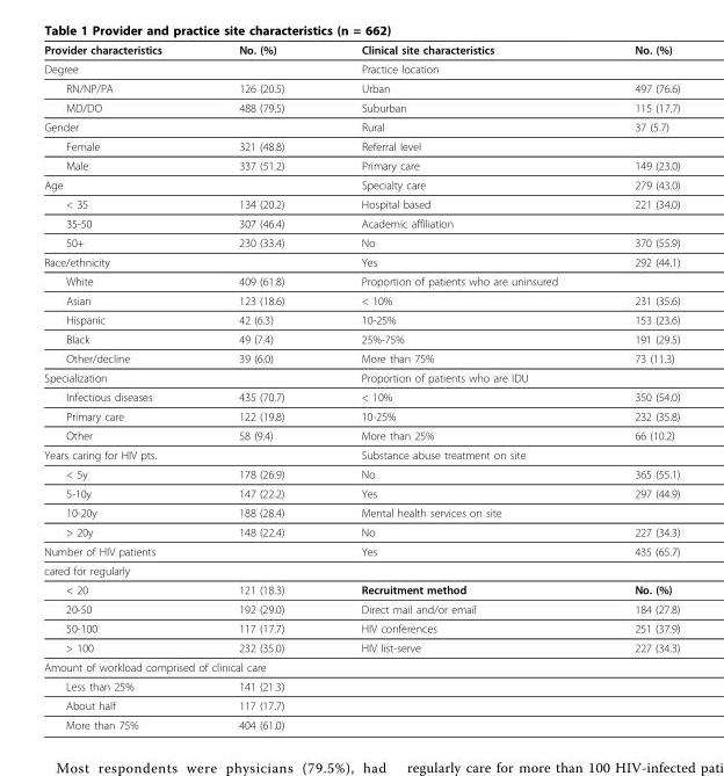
<table><thead><tr><td>Provider characteristics</td><td>No. (%)</td><td>Clinical site characteristics</td><td>No. (%)</td></tr></thead><tbody><tr><td>Degree</td><td></td><td>Practice location</td><td></td></tr><tr><td>RN/NP/PA</td><td>126 (20.5)</td><td>Urban</td><td>497 (76.6)</td></tr><tr><td>MD/DO</td><td>488 (79.5)</td><td>Suburban</td><td>115 (17.7)</td></tr><tr><td>Gender</td><td></td><td>Rural</td><td>37 (5.7)</td></tr><tr><td>Female</td><td>321 (48.8)</td><td>Referral level</td><td></td></tr><tr><td>Male</td><td>337 (51.2)</td><td>Primary care</td><td>149 (23.0)</td></tr><tr><td>Age</td><td></td><td>Specialty care</td><td>279 (43.0)</td></tr><tr><td>&lt; 35</td><td>134 (20.2)</td><td>Hospital based</td><td>221 (34.0)</td></tr><tr><td>35-50</td><td>307 (46.4)</td><td>Academic affiliation</td><td></td></tr><tr><td>50+</td><td>230 (33.4)</td><td>No</td><td>370 (55.9)</td></tr><tr><td>Race/ethnicity</td><td></td><td>Yes</td><td>292 (44.1)</td></tr><tr><td>White</td><td>409 (61.8)</td><td>Proportion of patients who are uninsured</td><td></td></tr><tr><td>Asian</td><td>123 (18.6)</td><td>&lt; 10%</td><td>231 (35.6)</td></tr><tr><td>Hispanic</td><td>42 (6.3)</td><td>10-25%</td><td>153 (23.6)</td></tr><tr><td>Black</td><td>49 (7.4)</td><td>25%-75%</td><td>191 (29.5)</td></tr><tr><td>Other/decline</td><td>39 (6.0)</td><td>More than 75%</td><td>73 (11.3)</td></tr><tr><td>Specialization</td><td></td><td>Proportion of patients who are IDU</td><td></td></tr><tr><td>Infectious diseases</td><td>435 (70.7)</td><td>&lt; 10%</td><td>350 (54.0)</td></tr><tr><td>Primary care</td><td>122 (19.8)</td><td>10-25%</td><td>232 (35.8)</td></tr><tr><td>Other</td><td>58 (9.4)</td><td>More than 25%</td><td>66 (10.2)</td></tr><tr><td>Years caring for HIV pts.</td><td></td><td>Substance abuse treatment on site</td><td></td></tr><tr><td>&lt; 5y</td><td>178 (26.9)</td><td>No</td><td>365 (55.1)</td></tr><tr><td>5-10y</td><td>147 (22.2)</td><td>Yes</td><td>297 (44.9)</td></tr><tr><td>10-20y</td><td>188 (28.4)</td><td>Mental health services on site</td><td></td></tr><tr><td>&gt; 20y</td><td>148 (22.4)</td><td>No</td><td>227 (34.3)</td></tr><tr><td>Number of HIV patients</td><td></td><td>Yes</td><td>435 (65.7)</td></tr><tr><td colspan="4">cared for regularly</td></tr><tr><td>&lt; 20</td><td>121 (18.3)</td><td>Recruitment method</td><td>No. (%)</td></tr><tr><td>20-50</td><td>192 (29.0)</td><td>Direct mail and/or email</td><td>184 (27.8)</td></tr><tr><td>50-100</td><td>117 (17.7)</td><td>HIV conferences</td><td>251 (37.9)</td></tr><tr><td>&gt; 100</td><td>232 (35.0)</td><td>HIV list-serve</td><td>227 (34.3)</td></tr><tr><td colspan="4">Amount of workload comprised of clinical care</td></tr><tr><td>Less than 25%</td><td>141 (21.3)</td><td></td><td></td></tr><tr><td>About half</td><td>117 (17.7)</td><td></td><td></td></tr><tr><td>More than 75%</td><td>404 (61.0)</td><td></td><td></td></tr></tbody></table>